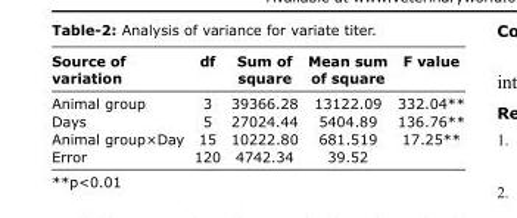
<table><thead><tr><td>Source of variation</td><td>df</td><td>Sum of square</td><td>Mean sum of square</td><td>F value</td></tr></thead><tbody><tr><td>Animal group</td><td>3</td><td>39366.28</td><td>13122.09</td><td>332.04**</td></tr><tr><td>Days</td><td>5</td><td>27024.44</td><td>5404.89</td><td>136.76**</td></tr><tr><td>Animal group×Day</td><td>15</td><td>10222.80</td><td>681.519</td><td>17.25**</td></tr><tr><td>Error</td><td>120</td><td>4742.34</td><td>39.52</td><td></td></tr></tbody></table>